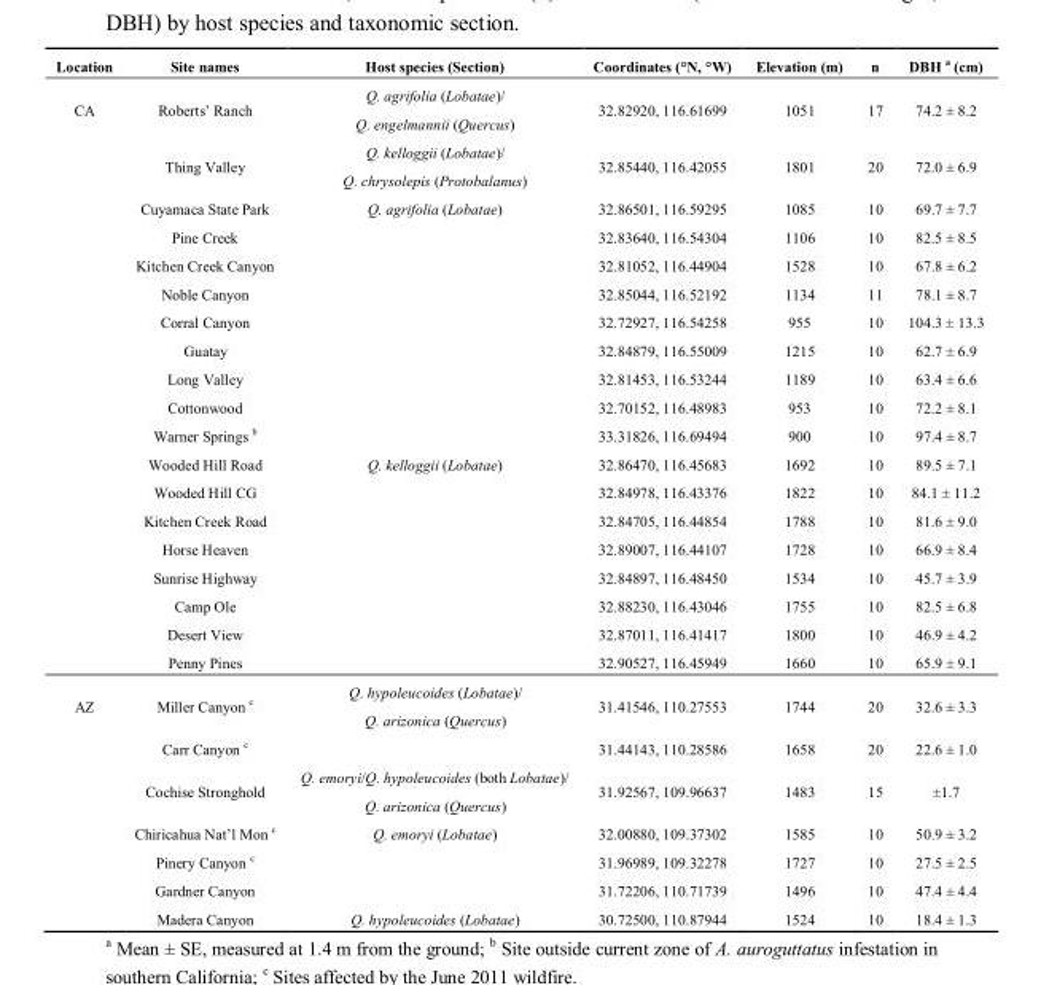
<table><thead><tr><td>Location</td><td>Site names</td><td>Host species (Section)</td><td>Coordinates (°N, °W)</td><td>Elevation (m)</td><td>n</td><td>DBH <sup>a</sup> (cm)</td></tr></thead><tbody><tr><td rowspan="19">CA</td><td>Roberts’ Ranch</td><td>Q. agrifolia (Lobatae)/ Q. engelmannii (Quercus)</td><td>32.82920, 116.61699</td><td>1051</td><td>17</td><td>74.2 ± 8.2</td></tr><tr><td>Thing Valley</td><td>Q. kelloggii (Lobatae)/ Q. chrysolepis (Protobalanus)</td><td>32.85440, 116.42055</td><td>1801</td><td>20</td><td>72.0 ± 6.9</td></tr><tr><td>Cuyamaca State Park</td><td>Q. agrifolia (Lobatae)</td><td>32.86501, 116.59295</td><td>1085</td><td>10</td><td>69.7 ± 7.7</td></tr><tr><td>Pine Creek</td><td></td><td>32.83640, 116.54304</td><td>1106</td><td>10</td><td>82.5 ± 8.5</td></tr><tr><td>Kitchen Creek Canyon</td><td></td><td>32.81052, 116.44904</td><td>1528</td><td>10</td><td>67.8 ± 6.2</td></tr><tr><td>Noble Canyon</td><td></td><td>32.85044, 116.52192</td><td>1134</td><td>11</td><td>78.1 ± 8.7</td></tr><tr><td>Corral Canyon</td><td></td><td>32.72927, 116.54258</td><td>955</td><td>10</td><td>104.3 ± 13.3</td></tr><tr><td>Guatay</td><td></td><td>32.84879, 116.55009</td><td>1215</td><td>10</td><td>62.7 ± 6.9</td></tr><tr><td>Long Valley</td><td></td><td>32.81453, 116.53244</td><td>1189</td><td>10</td><td>63.4 ± 6.6</td></tr><tr><td>Cottonwood</td><td></td><td>32.70152, 116.48983</td><td>953</td><td>10</td><td>72.2 ± 8.1</td></tr><tr><td>Warner Springs <sup>b</sup></td><td></td><td>33.31826, 116.69494</td><td>900</td><td>10</td><td>97.4 ± 8.7</td></tr><tr><td>Wooded Hill Road</td><td>Q. kelloggii (Lobatae)</td><td>32.86470, 116.45683</td><td>1692</td><td>10</td><td>89.5 ± 7.1</td></tr><tr><td>Wooded Hill CG</td><td></td><td>32.84978, 116.43376</td><td>1822</td><td>10</td><td>84.1 ± 11.2</td></tr><tr><td>Kitchen Creek Road</td><td></td><td>32.84705, 116.44854</td><td>1788</td><td>10</td><td>81.6 ± 9.0</td></tr><tr><td>Horse Heaven</td><td></td><td>32.89007, 116.44107</td><td>1728</td><td>10</td><td>66.9 ± 8.4</td></tr><tr><td>Sunrise Highway</td><td></td><td>32.84897, 116.48450</td><td>1534</td><td>10</td><td>45.7 ± 3.9</td></tr><tr><td>Camp Ole</td><td></td><td>32.88230, 116.43046</td><td>1755</td><td>10</td><td>82.5 ± 6.8</td></tr><tr><td>Desert View</td><td></td><td>32.87011, 116.41417</td><td>1800</td><td>10</td><td>46.9 ± 4.2</td></tr><tr><td>Penny Pines</td><td></td><td>32.90527, 116.45949</td><td>1660</td><td>10</td><td>65.9 ± 9.1</td></tr><tr><td rowspan="7">AZ</td><td>Miller Canyon <sup>c</sup></td><td>Q. hypoleucoides (Lobatae)/ Q. arizonica (Quercus)</td><td>31.41546, 110.27553</td><td>1744</td><td>20</td><td>32.6 ± 3.3</td></tr><tr><td>Carr Canyon <sup>c</sup></td><td></td><td>31.44143, 110.28586</td><td>1658</td><td>20</td><td>22.6 ± 1.0</td></tr><tr><td>Cochise Stronghold</td><td>Q. emoryi/Q. hypoleucoides (both Lobatae)/ Q. arizonica (Quercus)</td><td>31.92567, 109.96637</td><td>1483</td><td>15</td><td>±1.7</td></tr><tr><td>Chiricahua Nat’l Mon <sup>c</sup></td><td>Q. emoryi (Lobatae)</td><td>32.00880, 109.37302</td><td>1585</td><td>10</td><td>50.9 ± 3.2</td></tr><tr><td>Pinery Canyon <sup>c</sup></td><td></td><td>31.96989, 109.32278</td><td>1727</td><td>10</td><td>27.5 ± 2.5</td></tr><tr><td>Gardner Canyon</td><td></td><td>31.72206, 110.71739</td><td>1496</td><td>10</td><td>47.4 ± 4.4</td></tr><tr><td>Madera Canyon</td><td>Q. hypoleucoides (Lobatae)</td><td>30.72500, 110.87944</td><td>1524</td><td>10</td><td>18.4 ± 1.3</td></tr></tbody></table>